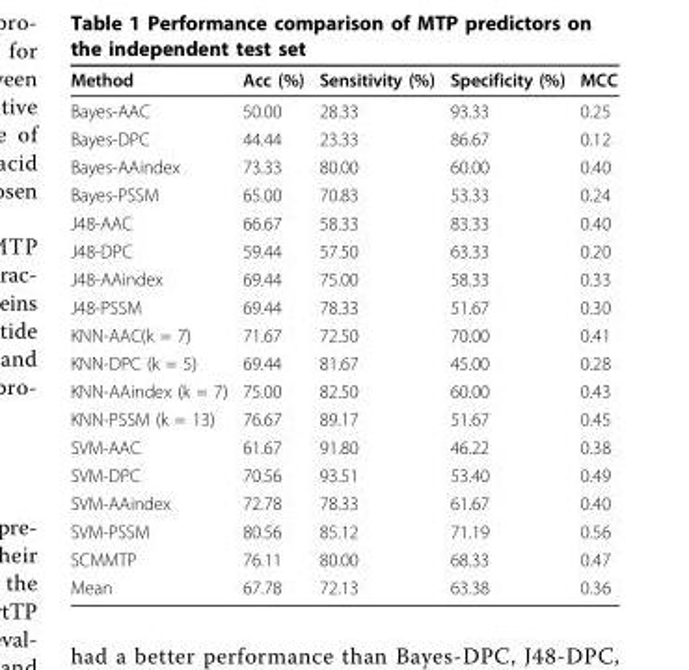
<table><thead><tr><td>Method</td><td>Acc (%)</td><td>Sensitivity (%)</td><td>Specificity (%)</td><td>MCC</td></tr></thead><tbody><tr><td>Bayes-AAC</td><td>50.00</td><td>28.33</td><td>93.33</td><td>0.25</td></tr><tr><td>Bayes-DPC</td><td>44.44</td><td>23.33</td><td>86.67</td><td>0.12</td></tr><tr><td>Bayes-AAindex</td><td>73.33</td><td>80.00</td><td>60.00</td><td>0.40</td></tr><tr><td>Bayes-PSSM</td><td>65.00</td><td>70.83</td><td>53.33</td><td>0.24</td></tr><tr><td>J48-AAC</td><td>66.67</td><td>58.33</td><td>83.33</td><td>0.40</td></tr><tr><td>J48-DPC</td><td>59.44</td><td>57.50</td><td>63.33</td><td>0.20</td></tr><tr><td>J48-AAindex</td><td>69.44</td><td>75.00</td><td>58.33</td><td>0.33</td></tr><tr><td>J48-PSSM</td><td>69.44</td><td>78.33</td><td>51.67</td><td>0.30</td></tr><tr><td>KNN-AAC(k = 7)</td><td>71.67</td><td>72.50</td><td>70.00</td><td>0.41</td></tr><tr><td>KNN-DPC (k = 5)</td><td>69.44</td><td>81.67</td><td>45.00</td><td>0.28</td></tr><tr><td>KNN-AAindex (k = 7)</td><td>75.00</td><td>82.50</td><td>60.00</td><td>0.43</td></tr><tr><td>KNN-PSSM (k = 13)</td><td>76.67</td><td>89.17</td><td>51.67</td><td>0.45</td></tr><tr><td>SVM-AAC</td><td>61.67</td><td>91.80</td><td>46.22</td><td>0.38</td></tr><tr><td>SVM-DPC</td><td>70.56</td><td>93.51</td><td>53.40</td><td>0.49</td></tr><tr><td>SVM-AAindex</td><td>72.78</td><td>78.33</td><td>61.67</td><td>0.40</td></tr><tr><td>SVM-PSSM</td><td>80.56</td><td>85.12</td><td>71.19</td><td>0.56</td></tr><tr><td>SCMMTP</td><td>76.11</td><td>80.00</td><td>68.33</td><td>0.47</td></tr><tr><td>Mean</td><td>67.78</td><td>72.13</td><td>63.38</td><td>0.36</td></tr></tbody></table>